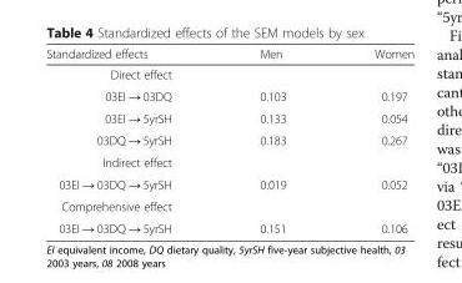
<table><thead><tr><td>Standardized effects</td><td>Men</td><td>Women</td></tr></thead><tbody><tr><td colspan="3">Direct effect</td></tr><tr><td>03EI → 03DQ</td><td>0.103</td><td>0.197</td></tr><tr><td>03EI → 5yrSH</td><td>0.133</td><td>0.054</td></tr><tr><td>03DQ → 5yrSH</td><td>0.183</td><td>0.267</td></tr><tr><td colspan="3">Indirect effect</td></tr><tr><td>03EI → 03DQ → 5yrSH</td><td>0.019</td><td>0.052</td></tr><tr><td colspan="3">Comprehensive effect</td></tr><tr><td>03EI → 03DQ → 5yrSH</td><td>0.151</td><td>0.106</td></tr></tbody></table>